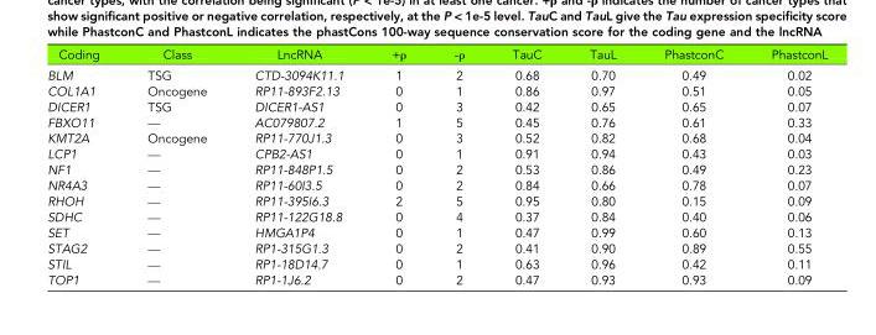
<table><thead><tr><td>Coding</td><td>Class</td><td>LncRNA</td><td>+ρ</td><td>-ρ</td><td>TauC</td><td>TauL</td><td>PhastconC</td><td>PhastconL</td></tr></thead><tbody><tr><td>BLM</td><td>TSG</td><td>CTD-3094K11.1</td><td>1</td><td>2</td><td>0.68</td><td>0.70</td><td>0.49</td><td>0.02</td></tr><tr><td>COL1A1</td><td>Oncogene</td><td>RP11-893F2.13</td><td>0</td><td>1</td><td>0.86</td><td>0.97</td><td>0.51</td><td>0.05</td></tr><tr><td>DICER1</td><td>TSG</td><td>DICER1-AS1</td><td>0</td><td>3</td><td>0.42</td><td>0.65</td><td>0.65</td><td>0.07</td></tr><tr><td>FBXO11</td><td>—</td><td>AC079807.2</td><td>1</td><td>5</td><td>0.45</td><td>0.76</td><td>0.61</td><td>0.33</td></tr><tr><td>KMT2A</td><td>Oncogene</td><td>RP11-770J1.3</td><td>0</td><td>3</td><td>0.52</td><td>0.82</td><td>0.68</td><td>0.04</td></tr><tr><td>LCP1</td><td>—</td><td>CPB2-AS1</td><td>0</td><td>1</td><td>0.91</td><td>0.94</td><td>0.43</td><td>0.03</td></tr><tr><td>NF1</td><td>—</td><td>RP11-848P1.5</td><td>0</td><td>2</td><td>0.53</td><td>0.86</td><td>0.49</td><td>0.23</td></tr><tr><td>NR4A3</td><td>—</td><td>RP11-60I3.5</td><td>0</td><td>2</td><td>0.84</td><td>0.66</td><td>0.78</td><td>0.07</td></tr><tr><td>RHOH</td><td>—</td><td>RP11-395I6.3</td><td>2</td><td>5</td><td>0.95</td><td>0.80</td><td>0.15</td><td>0.09</td></tr><tr><td>SDHC</td><td>—</td><td>RP11-122G18.8</td><td>0</td><td>4</td><td>0.37</td><td>0.84</td><td>0.40</td><td>0.06</td></tr><tr><td>SET</td><td>—</td><td>HMGA1P4</td><td>0</td><td>1</td><td>0.47</td><td>0.99</td><td>0.60</td><td>0.13</td></tr><tr><td>STAG2</td><td>—</td><td>RP1-315G1.3</td><td>0</td><td>2</td><td>0.41</td><td>0.90</td><td>0.89</td><td>0.55</td></tr><tr><td>STIL</td><td>—</td><td>RP1-18D14.7</td><td>0</td><td>1</td><td>0.63</td><td>0.96</td><td>0.42</td><td>0.11</td></tr><tr><td>TOP1</td><td>—</td><td>RP1-1J6.2</td><td>0</td><td>2</td><td>0.47</td><td>0.93</td><td>0.93</td><td>0.09</td></tr></tbody></table>